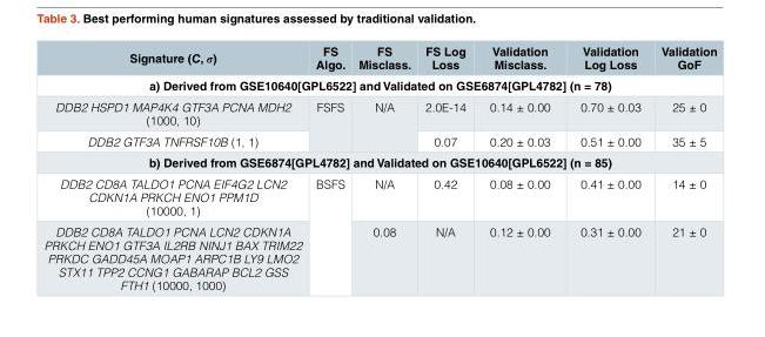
<table><thead><tr><td>Signature (C, σ)</td><td>FS Algo.</td><td>FS Misclass.</td><td>FS Log Loss</td><td>Validation Misclass.</td><td>Validation Log Loss</td><td>Validation GoF</td></tr></thead><tbody><tr><td colspan="7">a) Derived from GSE10640[GPL6522] and Validated on GSE6874[GPL4782] (n = 78)</td></tr><tr><td>DDB2 HSPD1 MAP4K4 GTF3A PCNA MDH2 (1000, 10)</td><td rowspan="2">FSFS</td><td rowspan="2">N/A</td><td>2.0E-14</td><td>0.14 ± 0.00</td><td>0.70 ± 0.03</td><td>25 ± 0</td></tr><tr><td>DDB2 GTF3A TNFRSF10B (1, 1)</td><td>0.07</td><td>0.20 ± 0.03</td><td>0.51 ± 0.00</td><td>35 ± 5</td></tr><tr><td colspan="7">b) Derived from GSE6874[GPL4782] and Validated on GSE10640[GPL6522] (n = 85)</td></tr><tr><td>DDB2 CD8A TALDO1 PCNA EIF4G2 LCN2 CDKN1A PRKCH ENO1 PPM1D (10000, 1)</td><td rowspan="2">BSFS</td><td>N/A</td><td>0.42</td><td>0.08 ± 0.00</td><td>0.41 ± 0.00</td><td>14 ± 0</td></tr><tr><td>DDB2 CD8A TALDO1 PCNA LCN2 CDKN1A PRKCH ENO1 GTF3A IL2RB NINJ1 BAX TRIM22 PRKDC GADD45A MOAP1 ARPC1B LY9 LMO2 STX11 TPP2 CCNG1 GABARAP BCL2 GSS FTH1 (10000, 1000)</td><td>0.08</td><td>N/A</td><td>0.12 ± 0.00</td><td>0.31 ± 0.00</td><td>21 ± 0</td></tr></tbody></table>